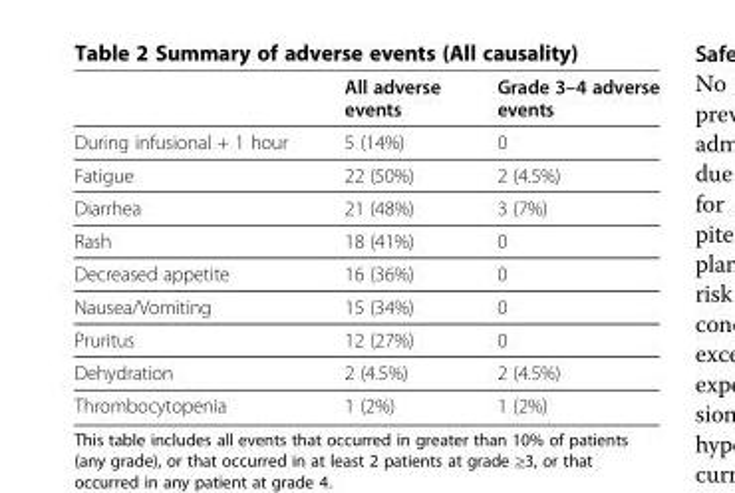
<table><thead><tr><td></td><td>All adverse events</td><td>Grade 3–4 adverse events</td></tr></thead><tbody><tr><td>During infusional + 1 hour</td><td>5 (14%)</td><td>0</td></tr><tr><td>Fatigue</td><td>22 (50%)</td><td>2 (4.5%)</td></tr><tr><td>Diarrhea</td><td>21 (48%)</td><td>3 (7%)</td></tr><tr><td>Rash</td><td>18 (41%)</td><td>0</td></tr><tr><td>Decreased appetite</td><td>16 (36%)</td><td>0</td></tr><tr><td>Nausea/Vomiting</td><td>15 (34%)</td><td>0</td></tr><tr><td>Pruritus</td><td>12 (27%)</td><td>0</td></tr><tr><td>Dehydration</td><td>2 (4.5%)</td><td>2 (4.5%)</td></tr><tr><td>Thrombocytopenia</td><td>1 (2%)</td><td>1 (2%)</td></tr></tbody></table>